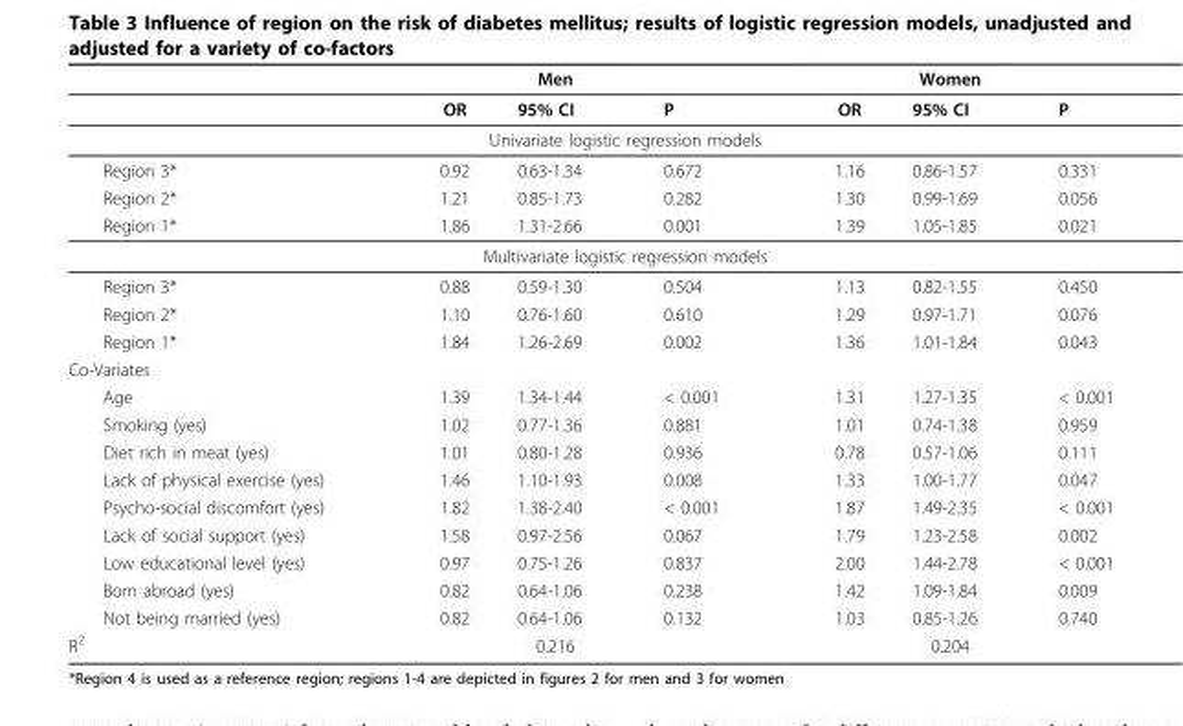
<table><thead><tr><td rowspan="2"></td><td colspan="3">Men</td><td colspan="3">Women</td></tr><tr><td>OR</td><td>95% CI</td><td>P</td><td>OR</td><td>95% CI</td><td>P</td></tr></thead><tbody><tr><td colspan="7">Univariate logistic regression models</td></tr><tr><td>Region 3*</td><td>0.92</td><td>0.63-1.34</td><td>0.672</td><td>1.16</td><td>0.86-1.57</td><td>0.331</td></tr><tr><td>Region 2*</td><td>1.21</td><td>0.85-1.73</td><td>0.282</td><td>1.30</td><td>0.99-1.69</td><td>0.056</td></tr><tr><td>Region 1*</td><td>1.86</td><td>1.31-2.66</td><td>0.001</td><td>1.39</td><td>1.05-1.85</td><td>0.021</td></tr><tr><td colspan="7">Multivariate logistic regression models</td></tr><tr><td>Region 3*</td><td>0.88</td><td>0.59-1.30</td><td>0.504</td><td>1.13</td><td>0.82-1.55</td><td>0.450</td></tr><tr><td>Region 2*</td><td>1.10</td><td>0.76-1.60</td><td>0.610</td><td>1.29</td><td>0.97-1.71</td><td>0.076</td></tr><tr><td>Region 1*</td><td>1.84</td><td>1.26-2.69</td><td>0.002</td><td>1.36</td><td>1.01-1.84</td><td>0.043</td></tr><tr><td colspan="7">Co-Variates</td></tr><tr><td>Age</td><td>1.39</td><td>1.34-1.44</td><td>&lt; 0.001</td><td>1.31</td><td>1.27-1.35</td><td>&lt; 0.001</td></tr><tr><td>Smoking (yes)</td><td>1.02</td><td>0.77-1.36</td><td>0.881</td><td>1.01</td><td>0.74-1.38</td><td>0.959</td></tr><tr><td>Diet rich in meat (yes)</td><td>1.01</td><td>0.80-1.28</td><td>0.936</td><td>0.78</td><td>0.57-1.06</td><td>0.111</td></tr><tr><td>Lack of physical exercise (yes)</td><td>1.46</td><td>1.10-1.93</td><td>0.008</td><td>1.33</td><td>1.00-1.77</td><td>0.047</td></tr><tr><td>Psycho-social discomfort (yes)</td><td>1.82</td><td>1.38-2.40</td><td>&lt; 0.001</td><td>1.87</td><td>1.49-2.35</td><td>&lt; 0.001</td></tr><tr><td>Lack of social support (yes)</td><td>1.58</td><td>0.97-2.56</td><td>0.067</td><td>1.79</td><td>1.23-2.58</td><td>0.002</td></tr><tr><td>Low educational level (yes)</td><td>0.97</td><td>0.75-1.26</td><td>0.837</td><td>2.00</td><td>1.44-2.78</td><td>&lt; 0.001</td></tr><tr><td>Born abroad (yes)</td><td>0.82</td><td>0.64-1.06</td><td>0.238</td><td>1.42</td><td>1.09-1.84</td><td>0.009</td></tr><tr><td>Not being married (yes)</td><td>0.82</td><td>0.64-1.06</td><td>0.132</td><td>1.03</td><td>0.85-1.26</td><td>0.740</td></tr><tr><td>R<sup>2</sup></td><td colspan="3">0.216</td><td colspan="3">0.204</td></tr></tbody></table>